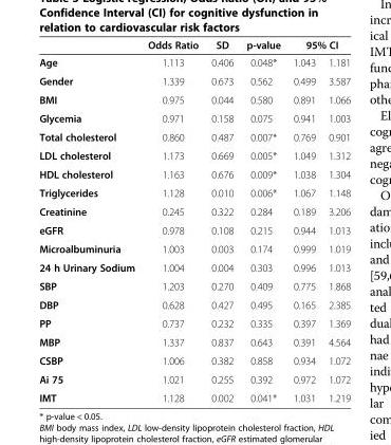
<table><thead><tr><td rowspan="2">Age</td><td rowspan="2">Odds Ratio 1.113</td><td rowspan="2">SD 0.406</td><td rowspan="2">p-value 0.048*</td><td colspan="2">95% CI</td></tr><tr><td>1.043</td><td>1.181</td></tr></thead><tbody><tr><td>Gender</td><td>1.339</td><td>0.673</td><td>0.562</td><td>0.499</td><td>3.587</td></tr><tr><td>BMI</td><td>0.975</td><td>0.044</td><td>0.580</td><td>0.891</td><td>1.066</td></tr><tr><td>Glycemia</td><td>0.971</td><td>0.158</td><td>0.075</td><td>0.941</td><td>1.003</td></tr><tr><td>Total cholesterol</td><td>0.860</td><td>0.487</td><td>0.007*</td><td>0.769</td><td>0.901</td></tr><tr><td>LDL cholesterol</td><td>1.173</td><td>0.669</td><td>0.005*</td><td>1.049</td><td>1.312</td></tr><tr><td>HDL cholesterol</td><td>1.163</td><td>0.676</td><td>0.009*</td><td>1.038</td><td>1.304</td></tr><tr><td>Triglycerides</td><td>1.128</td><td>0.010</td><td>0.006*</td><td>1.067</td><td>1.148</td></tr><tr><td>Creatinine</td><td>0.245</td><td>0.322</td><td>0.284</td><td>0.189</td><td>3.206</td></tr><tr><td>eGFR</td><td>0.978</td><td>0.108</td><td>0.215</td><td>0.944</td><td>1.013</td></tr><tr><td>Microalbuminuria</td><td>1.003</td><td>0.003</td><td>0.174</td><td>0.999</td><td>1.019</td></tr><tr><td>24 h Urinary Sodium</td><td>1.004</td><td>0.004</td><td>0.303</td><td>0.996</td><td>1.013</td></tr><tr><td>SBP</td><td>1.203</td><td>0.270</td><td>0.409</td><td>0.775</td><td>1.868</td></tr><tr><td>DBP</td><td>0.628</td><td>0.427</td><td>0.495</td><td>0.165</td><td>2.385</td></tr><tr><td>PP</td><td>0.737</td><td>0.232</td><td>0.335</td><td>0.397</td><td>1.369</td></tr><tr><td>MBP</td><td>1.337</td><td>0.837</td><td>0.643</td><td>0.391</td><td>4.564</td></tr><tr><td>CSBP</td><td>1.006</td><td>0.382</td><td>0.858</td><td>0.934</td><td>1.072</td></tr><tr><td>Ai 75</td><td>1.021</td><td>0.255</td><td>0.392</td><td>0.972</td><td>1.072</td></tr><tr><td>IMT</td><td>1.128</td><td>0.002</td><td>0.041*</td><td>1.031</td><td>1.219</td></tr></tbody></table>